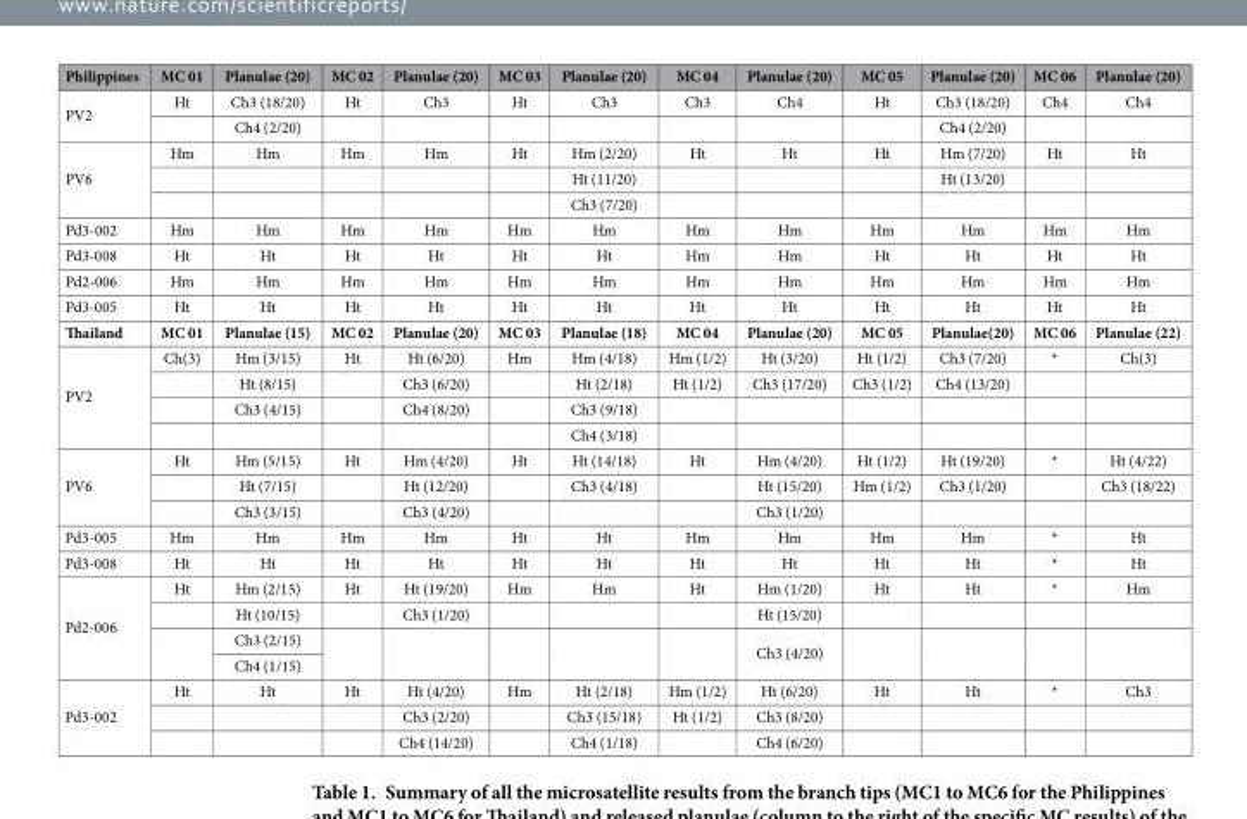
<table><thead><tr><td>Philippines</td><td>MC 01</td><td>Planulae (20)</td><td>MC 02</td><td>Planulae (20)</td><td>MC 03</td><td>Planulae (20)</td><td>MC 04</td><td>Planulae (20)</td><td>MC 05</td><td>Planulae (20)</td><td>MC 06</td><td>Planulae (20)</td></tr></thead><tbody><tr><td rowspan="2">PV2</td><td>Ht</td><td>Ch3 (18/20)</td><td>Ht</td><td>Ch3</td><td>Ht</td><td>Ch3</td><td>Ch3</td><td>Ch4</td><td>Ht</td><td>Ch3 (18/20)</td><td>Ch4</td><td>Ch4</td></tr><tr><td></td><td>Ch4 (2/20)</td><td></td><td></td><td></td><td></td><td></td><td></td><td></td><td>Ch4 (2/20)</td><td></td><td></td></tr><tr><td rowspan="3">PV6</td><td>Hm</td><td>Hm</td><td>Hm</td><td>Hm</td><td>Ht</td><td>Hm (2/20)</td><td>Ht</td><td>Ht</td><td>Ht</td><td>Hm (7/20)</td><td>Ht</td><td>Ht</td></tr><tr><td></td><td></td><td></td><td></td><td></td><td>Ht (11/20)</td><td></td><td></td><td></td><td>Ht (13/20)</td><td></td><td></td></tr><tr><td></td><td></td><td></td><td></td><td></td><td>Ch3 (7/20)</td><td></td><td></td><td></td><td></td><td></td><td></td></tr><tr><td>Pd3-002</td><td>Hm</td><td>Hm</td><td>Hm</td><td>Hm</td><td>Hm</td><td>Hm</td><td>Hm</td><td>Hm</td><td>Hm</td><td>Hm</td><td>Hm</td><td>Hm</td></tr><tr><td>Pd3-008</td><td>Ht</td><td>Ht</td><td>Ht</td><td>Ht</td><td>Ht</td><td>Ht</td><td>Hm</td><td>Hm</td><td>Ht</td><td>Ht</td><td>Ht</td><td>Ht</td></tr><tr><td>Pd2-006</td><td>Hm</td><td>Hm</td><td>Hm</td><td>Hm</td><td>Hm</td><td>Hm</td><td>Hm</td><td>Hm</td><td>Hm</td><td>Hm</td><td>Hm</td><td>Hm</td></tr><tr><td>Pd3-005</td><td>Ht</td><td>Ht</td><td>Ht</td><td>Ht</td><td>Ht</td><td>Ht</td><td>Ht</td><td>Ht</td><td>Ht</td><td>Ht</td><td>Ht</td><td>Ht</td></tr><tr><td>Thailand</td><td>MC 01</td><td>Planulae (15)</td><td>MC 02</td><td>Planulae (20)</td><td>MC 03</td><td>Planulae (18)</td><td>MC 04</td><td>Planulae (20)</td><td>MC 05</td><td>Planulae(20)</td><td>MC 06</td><td>Planulae (22)</td></tr><tr><td rowspan="4">PV2</td><td>Ch(3)</td><td>Hm (3/15)</td><td>Ht</td><td>Ht (6/20)</td><td>Hm</td><td>Hm (4/18)</td><td>Hm (1/2)</td><td>Ht (3/20)</td><td>Ht (1/2)</td><td>Ch3 (7/20)</td><td>*</td><td>Ch(3)</td></tr><tr><td></td><td>Ht (8/15)</td><td></td><td>Ch3 (6/20)</td><td></td><td>Ht (2/18)</td><td>Ht (1/2)</td><td>Ch3 (17/20)</td><td>Ch3 (1/2)</td><td>Ch4 (13/20)</td><td></td><td></td></tr><tr><td></td><td>Ch3 (4/15)</td><td></td><td>Ch4 (8/20)</td><td></td><td>Ch3 (9/18)</td><td></td><td></td><td></td><td></td><td></td><td></td></tr><tr><td></td><td></td><td></td><td></td><td></td><td>Ch4 (3/18)</td><td></td><td></td><td></td><td></td><td></td><td></td></tr><tr><td rowspan="3">PV6</td><td>Ht</td><td>Hm (5/15)</td><td>Ht</td><td>Hm (4/20)</td><td>Ht</td><td>Ht (14/18)</td><td>Ht</td><td>Hm (4/20)</td><td>Ht (1/2)</td><td>Ht (19/20)</td><td>*</td><td>Ht (4/22)</td></tr><tr><td></td><td>Ht (7/15)</td><td></td><td>Ht (12/20)</td><td></td><td>Ch3 (4/18)</td><td></td><td>Ht (15/20)</td><td>Hm (1/2)</td><td>Ch3 (1/20)</td><td></td><td>Ch3 (18/22)</td></tr><tr><td></td><td>Ch3 (3/15)</td><td></td><td>Ch3 (4/20)</td><td></td><td></td><td></td><td>Ch3 (1/20)</td><td></td><td></td><td></td><td></td></tr><tr><td>Pd3-005</td><td>Hm</td><td>Hm</td><td>Hm</td><td>Hm</td><td>Ht</td><td>Ht</td><td>Hm</td><td>Hm</td><td>Hm</td><td>Hm</td><td>*</td><td>Ht</td></tr><tr><td>Pd3-008</td><td>Ht</td><td>Ht</td><td>Ht</td><td>Ht</td><td>Ht</td><td>Ht</td><td>Ht</td><td>Ht</td><td>Ht</td><td>Ht</td><td>*</td><td>Ht</td></tr><tr><td rowspan="4">Pd2-006</td><td>Ht</td><td>Hm (2/15)</td><td>Ht</td><td>Ht (19/20)</td><td>Hm</td><td>Hm</td><td>Ht</td><td>Hm (1/20)</td><td>Ht</td><td>Ht</td><td>*</td><td>Hm</td></tr><tr><td></td><td>Ht (10/15)</td><td></td><td>Ch3 (1/20)</td><td></td><td></td><td></td><td>Ht (15/20)</td><td></td><td></td><td></td><td></td></tr><tr><td rowspan="2"></td><td>Ch3 (2/15)</td><td rowspan="2"></td><td rowspan="2"></td><td rowspan="2"></td><td rowspan="2"></td><td rowspan="2"></td><td rowspan="2">Ch3 (4/20)</td><td rowspan="2"></td><td rowspan="2"></td><td rowspan="2"></td><td rowspan="2"></td></tr><tr><td>Ch4 (1/15)</td></tr><tr><td rowspan="3">Pd3-002</td><td>Ht</td><td>Ht</td><td>Ht</td><td>Ht (4/20)</td><td>Hm</td><td>Ht (2/18)</td><td>Hm (1/2)</td><td>Ht (6/20)</td><td>Ht</td><td>Ht</td><td>*</td><td>Ch3</td></tr><tr><td></td><td></td><td></td><td>Ch3 (2/20)</td><td></td><td>Ch3 (15/18)</td><td>Ht (1/2)</td><td>Ch3 (8/20)</td><td></td><td></td><td></td><td></td></tr><tr><td></td><td></td><td></td><td>Ch4 (14/20)</td><td></td><td>Ch4 (1/18)</td><td></td><td>Ch4 (6/20)</td><td></td><td></td><td></td><td></td></tr></tbody></table>